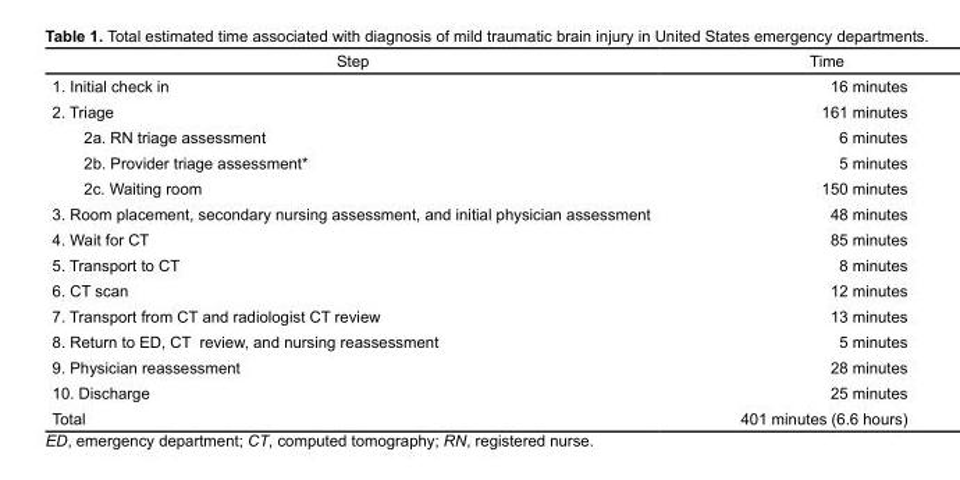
<table><thead><tr><td>Step</td><td>Time</td></tr></thead><tbody><tr><td>1. Initial check in</td><td>16 minutes</td></tr><tr><td>2. Triage</td><td>161 minutes</td></tr><tr><td>2a. RN triage assessment</td><td>6 minutes</td></tr><tr><td>2b. Provider triage assessment*</td><td>5 minutes</td></tr><tr><td>2c. Waiting room</td><td>150 minutes</td></tr><tr><td>3. Room placement, secondary nursing assessment, and initial physician assessment</td><td>48 minutes</td></tr><tr><td>4. Wait for CT</td><td>85 minutes</td></tr><tr><td>5. Transport to CT</td><td>8 minutes</td></tr><tr><td>6. CT scan</td><td>12 minutes</td></tr><tr><td>7. Transport from CT and radiologist CT review</td><td>13 minutes</td></tr><tr><td>8. Return to ED, CT review, and nursing reassessment</td><td>5 minutes</td></tr><tr><td>9. Physician reassessment</td><td>28 minutes</td></tr><tr><td>10. Discharge</td><td>25 minutes</td></tr><tr><td>Total</td><td>401 minutes (6.6 hours)</td></tr></tbody></table>